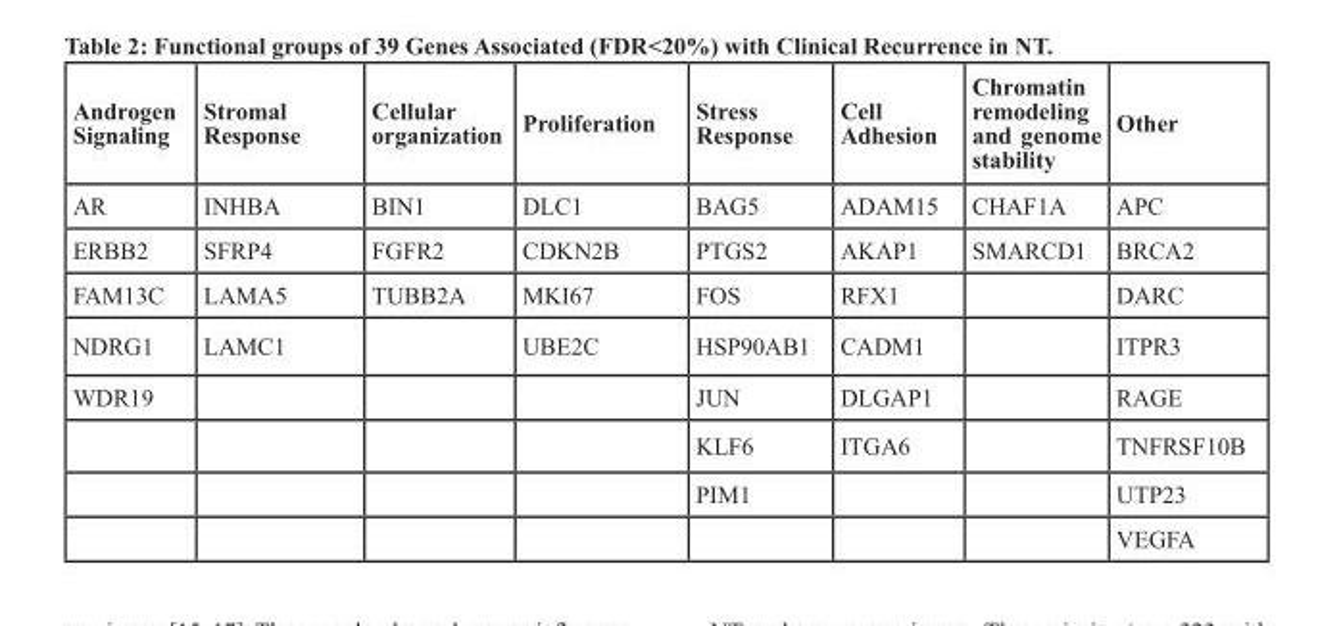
<table><thead><tr><td>Androgen signaling</td><td>Stromal response</td><td>cellular organization</td><td>Proliferation</td><td>stress response</td><td>cell Adhesion</td><td>Chromatin remodeling and genome stability</td><td>Other</td></tr></thead><tbody><tr><td>AR</td><td>INHBA</td><td>BIN1</td><td>DLC1</td><td>BAG5</td><td>ADAM15</td><td>CHAF1A</td><td>APC</td></tr><tr><td>ERBB2</td><td>SFRP4</td><td>FGFR2</td><td>CDKN2B</td><td>PTGS2</td><td>AKAP1</td><td>SMARCD1</td><td>BRCA2</td></tr><tr><td>FAM13C</td><td>LAMA5</td><td>TUBB2A</td><td>MKI67</td><td>FOS</td><td>RFX1</td><td></td><td>DARC</td></tr><tr><td>NDRG1</td><td>LAMC1</td><td></td><td>UBE2C</td><td>HSP90AB1</td><td>CADM1</td><td></td><td>ITPR3</td></tr><tr><td rowspan="4">WDR19</td><td></td><td></td><td></td><td>JUN</td><td>DLGAP1</td><td></td><td>RAGE</td></tr><tr><td></td><td></td><td></td><td>KLF6</td><td>ITGA6</td><td></td><td>TNFRSF10B</td></tr><tr><td></td><td></td><td></td><td>PIM1</td><td></td><td></td><td>UTP23</td></tr><tr><td></td><td></td><td></td><td></td><td></td><td></td><td>VEGFA</td></tr></tbody></table>